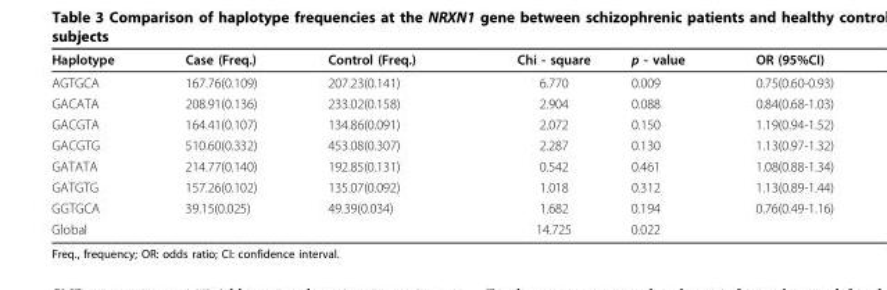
<table><thead><tr><td>Haplotype</td><td>Case (Freq.)</td><td>Control (Freq.)</td><td>Chi - square</td><td>p - value</td><td>OR (95%CI)</td></tr></thead><tbody><tr><td>AGTGCA</td><td>167.76(0.109)</td><td>207.23(0.141)</td><td>6.770</td><td>0.009</td><td>0.75(0.60-0.93)</td></tr><tr><td>GACATA</td><td>208.91(0.136)</td><td>233.02(0.158)</td><td>2.904</td><td>0.088</td><td>0.84(0.68-1.03)</td></tr><tr><td>GACGTA</td><td>164.41(0.107)</td><td>134.86(0.091)</td><td>2.072</td><td>0.150</td><td>1.19(0.94-1.52)</td></tr><tr><td>GACGTG</td><td>510.60(0.332)</td><td>453.08(0.307)</td><td>2.287</td><td>0.130</td><td>1.13(0.97-1.32)</td></tr><tr><td>GATATA</td><td>214.77(0.140)</td><td>192.85(0.131)</td><td>0.542</td><td>0.461</td><td>1.08(0.88-1.34)</td></tr><tr><td>GATGTG</td><td>157.26(0.102)</td><td>135.07(0.092)</td><td>1.018</td><td>0.312</td><td>1.13(0.89-1.44)</td></tr><tr><td>GGTGCA</td><td>39.15(0.025)</td><td>49.39(0.034)</td><td>1.682</td><td>0.194</td><td>0.76(0.49-1.16)</td></tr><tr><td>Global</td><td></td><td></td><td>14.725</td><td>0.022</td><td></td></tr></tbody></table>